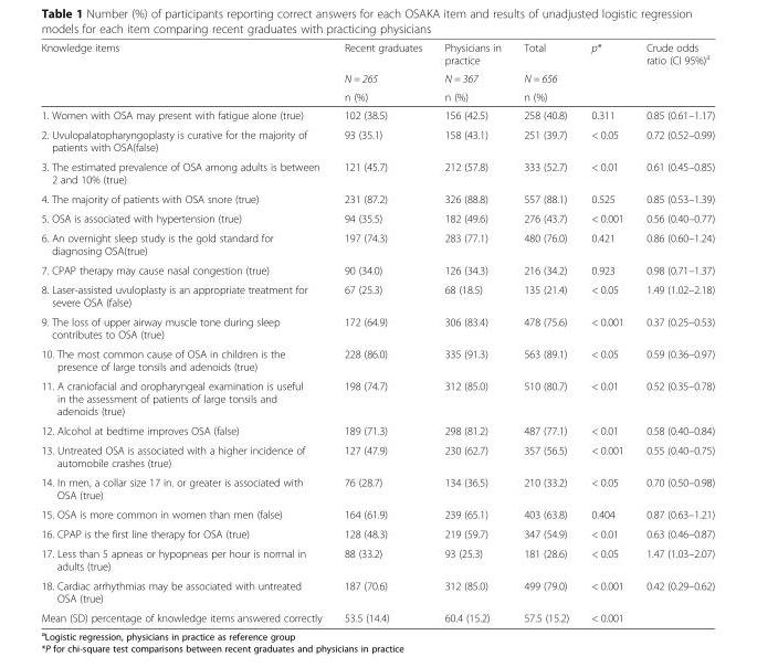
<table><thead><tr><td rowspan="3">Knowledge items</td><td rowspan="3">Recent graduates N = 265 n (%)</td><td rowspan="3">Physicians in practice N = 367 n (%)</td><td rowspan="3">Total N = 656 n (%)</td><td rowspan="3">p*</td><td rowspan="3">Crude odds ratio (CI 95%)<sup>a</sup></td></tr><tr></tr><tr></tr></thead><tbody><tr><td>1. Women with OSA may present with fatigue alone (true)</td><td>102 (38.5)</td><td>156 (42.5)</td><td>258 (40.8)</td><td>0.311</td><td>0.85 (0.61–1.17)</td></tr><tr><td>2. Uvulopalatopharyngoplasty is curative for the majority of patients with OSA(false)</td><td>93 (35.1)</td><td>158 (43.1)</td><td>251 (39.7)</td><td>&lt; 0.05</td><td>0.72 (0.52–0.99)</td></tr><tr><td>3. The estimated prevalence of OSA among adults is between 2 and 10% (true)</td><td>121 (45.7)</td><td>212 (57.8)</td><td>333 (52.7)</td><td>&lt; 0.01</td><td>0.61 (0.45–0.85)</td></tr><tr><td>4. The majority of patients with OSA snore (true)</td><td>231 (87.2)</td><td>326 (88.8)</td><td>557 (88.1)</td><td>0.525</td><td>0.85 (0.53–1.39)</td></tr><tr><td>5. OSA is associated with hypertension (true)</td><td>94 (35.5)</td><td>182 (49.6)</td><td>276 (43.7)</td><td>&lt; 0.001</td><td>0.56 (0.40–0.77)</td></tr><tr><td>6. An overnight sleep study is the gold standard for diagnosing OSA(true)</td><td>197 (74.3)</td><td>283 (77.1)</td><td>480 (76.0)</td><td>0.421</td><td>0.86 (0.60–1.24)</td></tr><tr><td>7. CPAP therapy may cause nasal congestion (true)</td><td>90 (34.0)</td><td>126 (34.3)</td><td>216 (34.2)</td><td>0.923</td><td>0.98 (0.71–1.37)</td></tr><tr><td>8. Laser-assisted uvuloplasty is an appropriate treatment for severe OSA (false)</td><td>67 (25.3)</td><td>68 (18.5)</td><td>135 (21.4)</td><td>&lt; 0.05</td><td>1.49 (1.02–2.18)</td></tr><tr><td>9. The loss of upper airway muscle tone during sleep contributes to OSA (true)</td><td>172 (64.9)</td><td>306 (83.4)</td><td>478 (75.6)</td><td>&lt; 0.001</td><td>0.37 (0.25–0.53)</td></tr><tr><td>10. The most common cause of OSA in children is the presence of large tonsils and adenoids (true)</td><td>228 (86.0)</td><td>335 (91.3)</td><td>563 (89.1)</td><td>&lt; 0.05</td><td>0.59 (0.36–0.97)</td></tr><tr><td>11. A craniofacial and oropharyngeal examination is useful in the assessment of patients of large tonsils and adenoids (true)</td><td>198 (74.7)</td><td>312 (85.0)</td><td>510 (80.7)</td><td>&lt; 0.01</td><td>0.52 (0.35–0.78)</td></tr><tr><td>12. Alcohol at bedtime improves OSA (false)</td><td>189 (71.3)</td><td>298 (81.2)</td><td>487 (77.1)</td><td>&lt; 0.01</td><td>0.58 (0.40–0.84)</td></tr><tr><td>13. Untreated OSA is associated with a higher incidence of automobile crashes (true)</td><td>127 (47.9)</td><td>230 (62.7)</td><td>357 (56.5)</td><td>&lt; 0.001</td><td>0.55 (0.40–0.75)</td></tr><tr><td>14. In men, a collar size 17 in. or greater is associated with OSA (true)</td><td>76 (28.7)</td><td>134 (36.5)</td><td>210 (33.2)</td><td>&lt; 0.05</td><td>0.70 (0.50–0.98)</td></tr><tr><td>15. OSA is more common in women than men (false)</td><td>164 (61.9)</td><td>239 (65.1)</td><td>403 (63.8)</td><td>0.404</td><td>0.87 (0.63–1.21)</td></tr><tr><td>16. CPAP is the first line therapy for OSA (true)</td><td>128 (48.3)</td><td>219 (59.7)</td><td>347 (54.9)</td><td>&lt; 0.01</td><td>0.63 (0.46–0.87)</td></tr><tr><td>17. Less than 5 apneas or hypopneas per hour is normal in adults (true)</td><td>88 (33.2)</td><td>93 (25.3)</td><td>181 (28.6)</td><td>&lt; 0.05</td><td>1.47 (1.03–2.07)</td></tr><tr><td>18. Cardiac arrhythmias may be associated with untreated OSA (true)</td><td>187 (70.6)</td><td>312 (85.0)</td><td>499 (79.0)</td><td>&lt; 0.001</td><td>0.42 (0.29–0.62)</td></tr><tr><td>Mean (SD) percentage of knowledge items answered correctly</td><td>53.5 (14.4)</td><td>60.4 (15.2)</td><td>57.5 (15.2)</td><td>&lt; 0.001</td><td></td></tr></tbody></table>